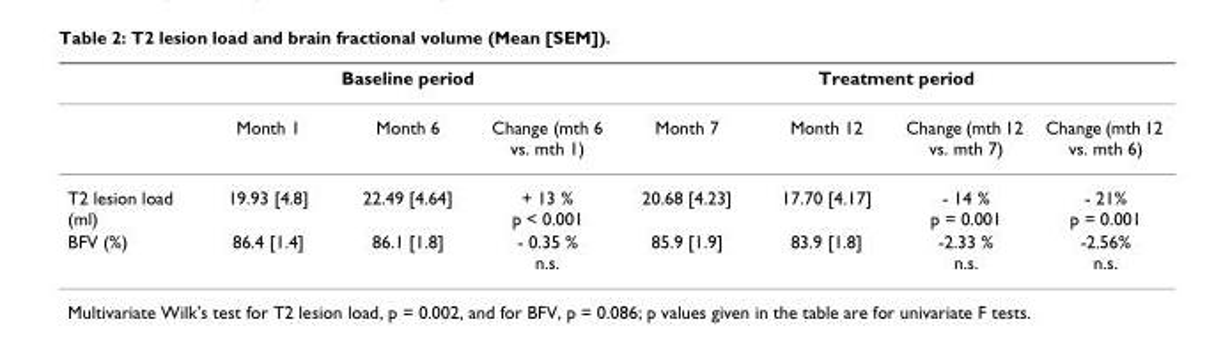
<table><thead><tr><td rowspan="2"></td><td colspan="3">Baseline period</td><td colspan="4">Treatment period</td></tr><tr><td>Month 1</td><td>Month 6</td><td>Change (mth 6 vs. mth 1)</td><td>Month 7</td><td>Month 12</td><td>Change (mth 12 vs. mth 7)</td><td>Change (mth 12 vs. mth 6)</td></tr></thead><tbody><tr><td>T2 lesion load (ml)</td><td>19.93 [4.8]</td><td>22.49 [4.64]</td><td>+ 13 % p &lt; 0.001</td><td>20.68 [4.23]</td><td>17.70 [4.17]</td><td>- 14 % p = 0.001</td><td>- 21% p = 0.001</td></tr><tr><td>BFV (%)</td><td>86.4 [1.4]</td><td>86.1 [1.8]</td><td>- 0.35 % n.s.</td><td>85.9 [1.9]</td><td>83.9 [1.8]</td><td>-2.33 % n.s.</td><td>-2.56% n.s.</td></tr></tbody></table>